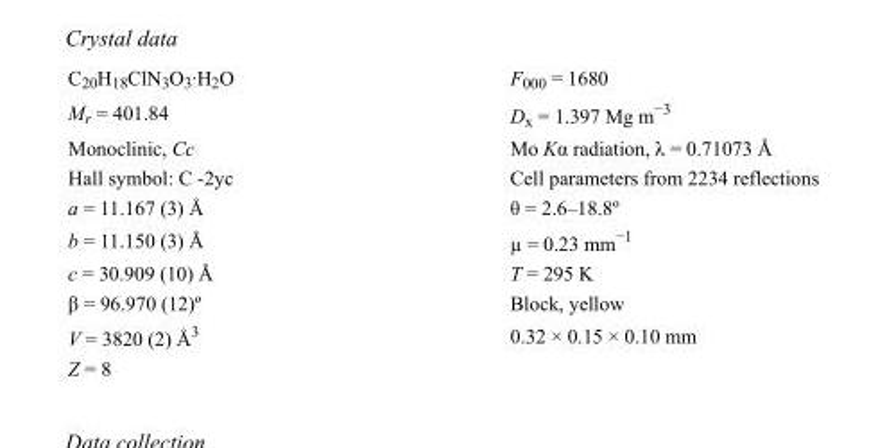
<table><tbody><tr><td>C<sub>20</sub>H<sub>18</sub>ClN<sub>3</sub>O<sub>3</sub>·H<sub>2</sub>O</td><td>F000 = 1680</td></tr><tr><td>M<sub>r</sub> = 401.84</td><td>D<sub>x</sub> = 1.397 Mg m<sup>−3</sup></td></tr><tr><td>Monoclinic, Cc</td><td>Mo Kα radiation, λ = 0.71073 Å</td></tr><tr><td>Hall symbol: C -2yc</td><td>Cell parameters from 2234 reflections</td></tr><tr><td>a = 11.167 (3) Å</td><td>θ = 2.6–18.8º</td></tr><tr><td>b = 11.150 (3) Å</td><td>µ = 0.23 mm<sup>−1</sup></td></tr><tr><td>c = 30.909 (10) Å</td><td>T = 295 K</td></tr><tr><td>β = 96.970 (12)º</td><td>Block, yellow</td></tr><tr><td>V = 3820 (2) Å<sup>3</sup></td><td>0.32 × 0.15 × 0.10 mm</td></tr><tr><td>Z = 8</td><td></td></tr></tbody></table>